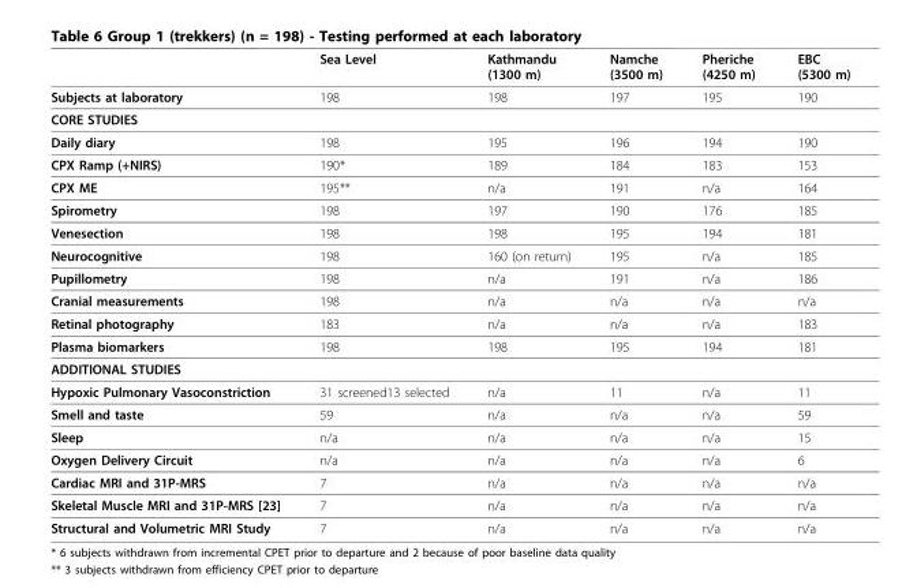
<table><thead><tr><td></td><td>Sea Level</td><td>Kathmandu (1300 m)</td><td>Namche (3500 m)</td><td>Pheriche (4250 m)</td><td>EBC (5300 m)</td></tr></thead><tbody><tr><td>Subjects at laboratory</td><td>198</td><td>198</td><td>197</td><td>195</td><td>190</td></tr><tr><td colspan="6">CORE STUDIES</td></tr><tr><td>Daily diary</td><td>198</td><td>195</td><td>196</td><td>194</td><td>190</td></tr><tr><td>CPX Ramp (+NIRS)</td><td>190*</td><td>189</td><td>184</td><td>183</td><td>153</td></tr><tr><td>CPX ME</td><td>195**</td><td>n/a</td><td>191</td><td>n/a</td><td>164</td></tr><tr><td>Spirometry</td><td>198</td><td>197</td><td>190</td><td>176</td><td>185</td></tr><tr><td>Venesection</td><td>198</td><td>198</td><td>195</td><td>194</td><td>181</td></tr><tr><td>Neurocognitive</td><td>198</td><td>160 (on return)</td><td>195</td><td>n/a</td><td>185</td></tr><tr><td>Pupillometry</td><td>198</td><td>n/a</td><td>191</td><td>n/a</td><td>186</td></tr><tr><td>Cranial measurements</td><td>198</td><td>n/a</td><td>n/a</td><td>n/a</td><td>n/a</td></tr><tr><td>Retinal photography</td><td>183</td><td>n/a</td><td>n/a</td><td>n/a</td><td>183</td></tr><tr><td>Plasma biomarkers</td><td>198</td><td>198</td><td>195</td><td>194</td><td>181</td></tr><tr><td colspan="6">ADDITIONAL STUDIES</td></tr><tr><td>Hypoxic Pulmonary Vasoconstriction</td><td>31 screened13 selected</td><td>n/a</td><td>11</td><td>n/a</td><td>11</td></tr><tr><td>Smell and taste</td><td>59</td><td>n/a</td><td>n/a</td><td>n/a</td><td>59</td></tr><tr><td>Sleep</td><td>n/a</td><td>n/a</td><td>n/a</td><td>n/a</td><td>15</td></tr><tr><td>Oxygen Delivery Circuit</td><td>n/a</td><td>n/a</td><td>n/a</td><td>n/a</td><td>6</td></tr><tr><td>Cardiac MRI and 31P-MRS</td><td>7</td><td>n/a</td><td>n/a</td><td>n/a</td><td>n/a</td></tr><tr><td>Skeletal Muscle MRI and 31P-MRS [23]</td><td>7</td><td>n/a</td><td>n/a</td><td>n/a</td><td>n/a</td></tr><tr><td>Structural and Volumetric MRI Study</td><td>7</td><td>n/a</td><td>n/a</td><td>n/a</td><td>n/a</td></tr></tbody></table>